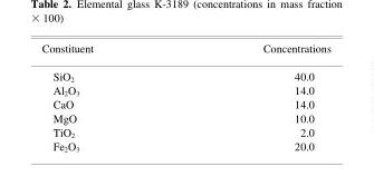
<table><thead><tr><td>Constituent</td><td>Concentrations</td></tr></thead><tbody><tr><td>SiO<sub>2</sub></td><td>40.0</td></tr><tr><td>Al<sub>2</sub>O<sub>3</sub></td><td>14.0</td></tr><tr><td>CaO</td><td>14.0</td></tr><tr><td>MgO</td><td>10.0</td></tr><tr><td>TiO<sub>2</sub></td><td>2.0</td></tr><tr><td>Fe<sub>2</sub>O<sub>3</sub></td><td>20.0</td></tr></tbody></table>